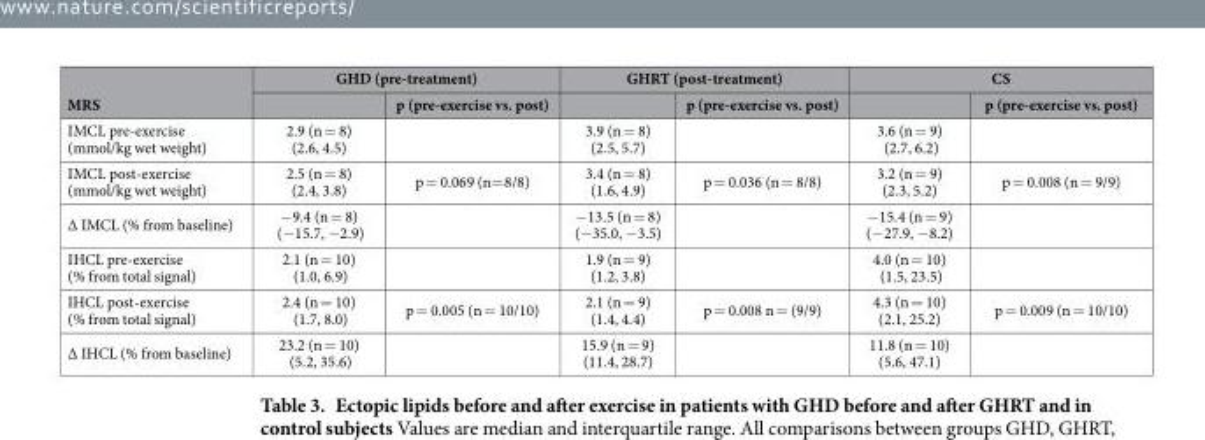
<table><thead><tr><td rowspan="2">MRS</td><td colspan="2">GHD (pre-treatment)</td><td colspan="2">GHRT (post-treatment)</td><td colspan="2">CS</td></tr><tr><td></td><td>p (pre-exercise vs. post)</td><td></td><td>p (pre-exercise vs. post)</td><td></td><td>p (pre-exercise vs. post)</td></tr></thead><tbody><tr><td>IMCL pre-exercise (mmol/kg wet weight)</td><td>2.9 (n = 8) (2.6, 4.5)</td><td></td><td>3.9 (n = 8) (2.5, 5.7)</td><td></td><td>3.6 (n = 9) (2.7, 6.2)</td><td></td></tr><tr><td>IMCL post-exercise (mmol/kg wet weight)</td><td>2.5 (n = 8) (2.4, 3.8)</td><td>p = 0.069 (n= 8/8)</td><td>3.4 (n = 8) (1.6, 4.9)</td><td>p = 0.036 (n = 8/8)</td><td>3.2 (n = 9) (2.3, 5.2)</td><td>p = 0.008 (n = 9/9)</td></tr><tr><td>∆ IMCL (% from baseline)</td><td>−9.4 (n = 8) (−15.7, −2.9)</td><td></td><td>−13.5 (n = 8) (−35.0, −3.5)</td><td></td><td>−15.4 (n = 9) (−27.9, −8.2)</td><td></td></tr><tr><td>IHCL pre-exercise (% from total signal)</td><td>2.1 (n = 10) (1.0, 6.9)</td><td></td><td>1.9 (n = 9) (1.2, 3.8)</td><td></td><td>4.0 (n = 10) (1.5, 23.5)</td><td></td></tr><tr><td>IHCL post-exercise (% from total signal)</td><td>2.4 (n = 10) (1.7, 8.0)</td><td>p = 0.005 (n = 10/10)</td><td>2.1 (n = 9) (1.4, 4.4)</td><td>p = 0.008 n = (9/9)</td><td>4.3 (n = 10) (2.1, 25.2)</td><td>p = 0.009 (n = 10/10)</td></tr><tr><td>∆ IHCL (% from baseline)</td><td>23.2 (n = 10) (5.2, 35.6)</td><td></td><td>15.9 (n = 9) (11.4, 28.7)</td><td></td><td>11.8 (n = 10) (5.6, 47.1)</td><td></td></tr></tbody></table>